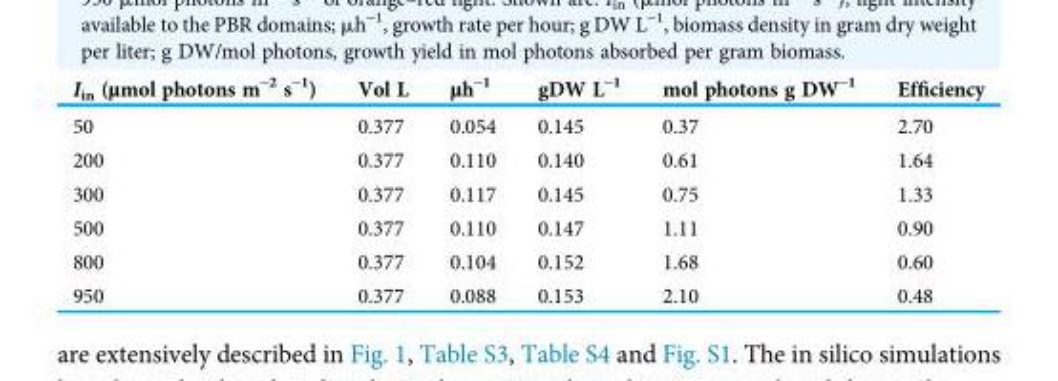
<table><thead><tr><td>I<sub>in</sub> (µmol photons m<sup>-2</sup> s<sup>-1</sup>)</td><td>Vol L</td><td>µh<sup>-1</sup></td><td>gDW L<sup>-1</sup></td><td>mol photons g DW<sup>-1</sup></td><td>Efficiency</td></tr></thead><tbody><tr><td>50</td><td>0.377</td><td>0.054</td><td>0.145</td><td>0.37</td><td>2.70</td></tr><tr><td>200</td><td>0.377</td><td>0.110</td><td>0.140</td><td>0.61</td><td>1.64</td></tr><tr><td>300</td><td>0.377</td><td>0.117</td><td>0.145</td><td>0.75</td><td>1.33</td></tr><tr><td>500</td><td>0.377</td><td>0.110</td><td>0.147</td><td>1.11</td><td>0.90</td></tr><tr><td>800</td><td>0.377</td><td>0.104</td><td>0.152</td><td>1.68</td><td>0.60</td></tr><tr><td>950</td><td>0.377</td><td>0.088</td><td>0.153</td><td>2.10</td><td>0.48</td></tr></tbody></table>